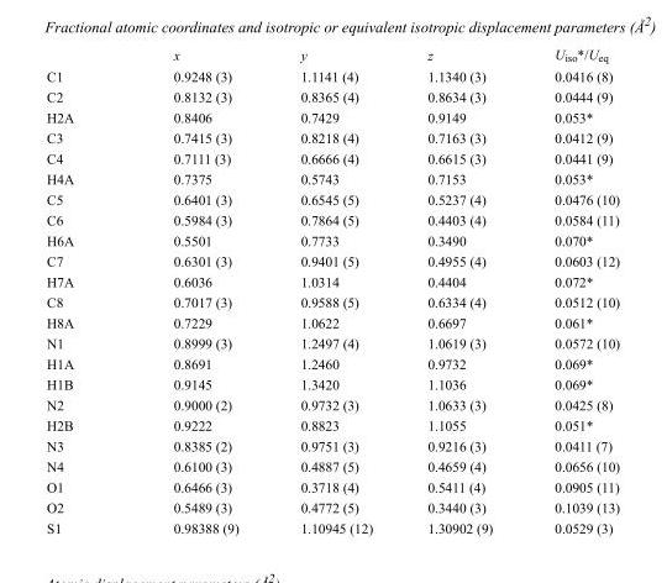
<table><thead><tr><td></td><td>x</td><td>y</td><td>z</td><td>U<sub>iso</sub>*/U<sub>eq</sub></td></tr></thead><tbody><tr><td>C1</td><td>0.9248 (3)</td><td>1.1141 (4)</td><td>1.1340 (3)</td><td>0.0416 (8)</td></tr><tr><td>C2</td><td>0.8132 (3)</td><td>0.8365 (4)</td><td>0.8634 (3)</td><td>0.0444 (9)</td></tr><tr><td>H2A</td><td>0.8406</td><td>0.7429</td><td>0.9149</td><td>0.053*</td></tr><tr><td>C3</td><td>0.7415 (3)</td><td>0.8218 (4)</td><td>0.7163 (3)</td><td>0.0412 (9)</td></tr><tr><td>C4</td><td>0.7111 (3)</td><td>0.6666 (4)</td><td>0.6615 (3)</td><td>0.0441 (9)</td></tr><tr><td>H4A</td><td>0.7375</td><td>0.5743</td><td>0.7153</td><td>0.053*</td></tr><tr><td>C5</td><td>0.6401 (3)</td><td>0.6545 (5)</td><td>0.5237 (4)</td><td>0.0476 (10)</td></tr><tr><td>C6</td><td>0.5984 (3)</td><td>0.7864 (5)</td><td>0.4403 (4)</td><td>0.0584 (11)</td></tr><tr><td>H6A</td><td>0.5501</td><td>0.7733</td><td>0.3490</td><td>0.070*</td></tr><tr><td>C7</td><td>0.6301 (3)</td><td>0.9401 (5)</td><td>0.4955 (4)</td><td>0.0603 (12)</td></tr><tr><td>H7A</td><td>0.6036</td><td>1.0314</td><td>0.4404</td><td>0.072*</td></tr><tr><td>C8</td><td>0.7017 (3)</td><td>0.9588 (5)</td><td>0.6334 (4)</td><td>0.0512 (10)</td></tr><tr><td>H8A</td><td>0.7229</td><td>1.0622</td><td>0.6697</td><td>0.061*</td></tr><tr><td>N1</td><td>0.8999 (3)</td><td>1.2497 (4)</td><td>1.0619 (3)</td><td>0.0572 (10)</td></tr><tr><td>H1A</td><td>0.8691</td><td>1.2460</td><td>0.9732</td><td>0.069*</td></tr><tr><td>H1B</td><td>0.9145</td><td>1.3420</td><td>1.1036</td><td>0.069*</td></tr><tr><td>N2</td><td>0.9000 (2)</td><td>0.9732 (3)</td><td>1.0633 (3)</td><td>0.0425 (8)</td></tr><tr><td>H2B</td><td>0.9222</td><td>0.8823</td><td>1.1055</td><td>0.051*</td></tr><tr><td>N3</td><td>0.8385 (2)</td><td>0.9751 (3)</td><td>0.9216 (3)</td><td>0.0411 (7)</td></tr><tr><td>N4</td><td>0.6100 (3)</td><td>0.4887 (5)</td><td>0.4659 (4)</td><td>0.0656 (10)</td></tr><tr><td>O1</td><td>0.6466 (3)</td><td>0.3718 (4)</td><td>0.5411 (4)</td><td>0.0905 (11)</td></tr><tr><td>O2</td><td>0.5489 (3)</td><td>0.4772 (5)</td><td>0.3440 (3)</td><td>0.1039 (13)</td></tr><tr><td>S1</td><td>0.98388 (9)</td><td>1.10945 (12)</td><td>1.30902 (9)</td><td>0.0529 (3)</td></tr></tbody></table>